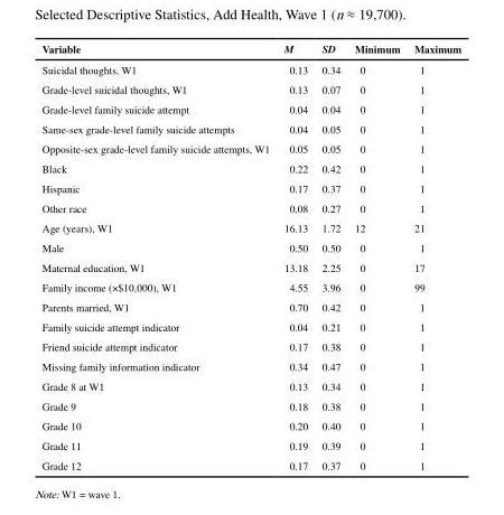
<table><thead><tr><td>Variable</td><td>M</td><td>SD</td><td>Minimum</td><td>Maximum</td></tr></thead><tbody><tr><td>Suicidal thoughts, W1</td><td>0.13</td><td>0.34</td><td>0</td><td>1</td></tr><tr><td>Grade-level suicidal thoughts, W1</td><td>0.13</td><td>0.07</td><td>0</td><td>1</td></tr><tr><td>Grade-level family suicide attempt</td><td>0.04</td><td>0.04</td><td>0</td><td>1</td></tr><tr><td>Same-sex grade-level family suicide attempts</td><td>0.04</td><td>0.05</td><td>0</td><td>1</td></tr><tr><td>Opposite-sex grade-level family suicide attempts, W1</td><td>0.05</td><td>0.05</td><td>0</td><td>1</td></tr><tr><td>Black</td><td>0.22</td><td>0.42</td><td>0</td><td>1</td></tr><tr><td>Hispanic</td><td>0.17</td><td>0.37</td><td>0</td><td>1</td></tr><tr><td>Other race</td><td>0.08</td><td>0.27</td><td>0</td><td>1</td></tr><tr><td>Age (years), W1</td><td>16.13</td><td>1.72</td><td>12</td><td>21</td></tr><tr><td>Male</td><td>0.50</td><td>0.50</td><td>0</td><td>1</td></tr><tr><td>Maternal education, W1</td><td>13.18</td><td>2.25</td><td>0</td><td>17</td></tr><tr><td>Family income (×$10,000), W1</td><td>4.55</td><td>3.96</td><td>0</td><td>99</td></tr><tr><td>Parents married, W1</td><td>0.70</td><td>0.42</td><td>0</td><td>1</td></tr><tr><td>Family suicide attempt indicator</td><td>0.04</td><td>0.21</td><td>0</td><td>1</td></tr><tr><td>Friend suicide attempt indicator</td><td>0.17</td><td>0.38</td><td>0</td><td>1</td></tr><tr><td>Missing family information indicator</td><td>0.34</td><td>0.47</td><td>0</td><td>1</td></tr><tr><td>Grade 8 at W1</td><td>0.13</td><td>0.34</td><td>0</td><td>1</td></tr><tr><td>Grade 9</td><td>0.18</td><td>0.38</td><td>0</td><td>1</td></tr><tr><td>Grade 10</td><td>0.20</td><td>0.40</td><td>0</td><td>1</td></tr><tr><td>Grade 11</td><td>0.19</td><td>0.39</td><td>0</td><td>1</td></tr><tr><td>Grade 12</td><td>0.17</td><td>0.37</td><td>0</td><td>1</td></tr></tbody></table>